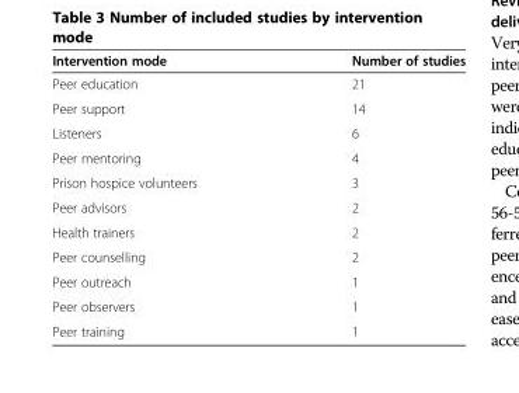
<table><thead><tr><td>Intervention mode</td><td>Number of studies</td></tr></thead><tbody><tr><td>Peer education</td><td>21</td></tr><tr><td>Peer support</td><td>14</td></tr><tr><td>Listeners</td><td>6</td></tr><tr><td>Peer mentoring</td><td>4</td></tr><tr><td>Prison hospice volunteers</td><td>3</td></tr><tr><td>Peer advisors</td><td>2</td></tr><tr><td>Health trainers</td><td>2</td></tr><tr><td>Peer counselling</td><td>2</td></tr><tr><td>Peer outreach</td><td>1</td></tr><tr><td>Peer observers</td><td>1</td></tr><tr><td>Peer training</td><td>1</td></tr></tbody></table>